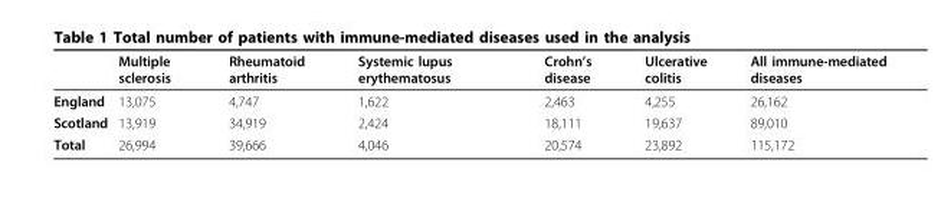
<table><thead><tr><td></td><td>Multiple sclerosis</td><td>Rheumatoid arthritis</td><td>Systemic lupus erythematosus</td><td>Crohn’s disease</td><td>Ulcerative colitis</td><td>All immune-mediated diseases</td></tr></thead><tbody><tr><td>England</td><td>13,075</td><td>4,747</td><td>1,622</td><td>2,463</td><td>4,255</td><td>26,162</td></tr><tr><td>Scotland</td><td>13,919</td><td>34,919</td><td>2,424</td><td>18,111</td><td>19,637</td><td>89,010</td></tr><tr><td>Total</td><td>26,994</td><td>39,666</td><td>4,046</td><td>20,574</td><td>23,892</td><td>115,172</td></tr></tbody></table>